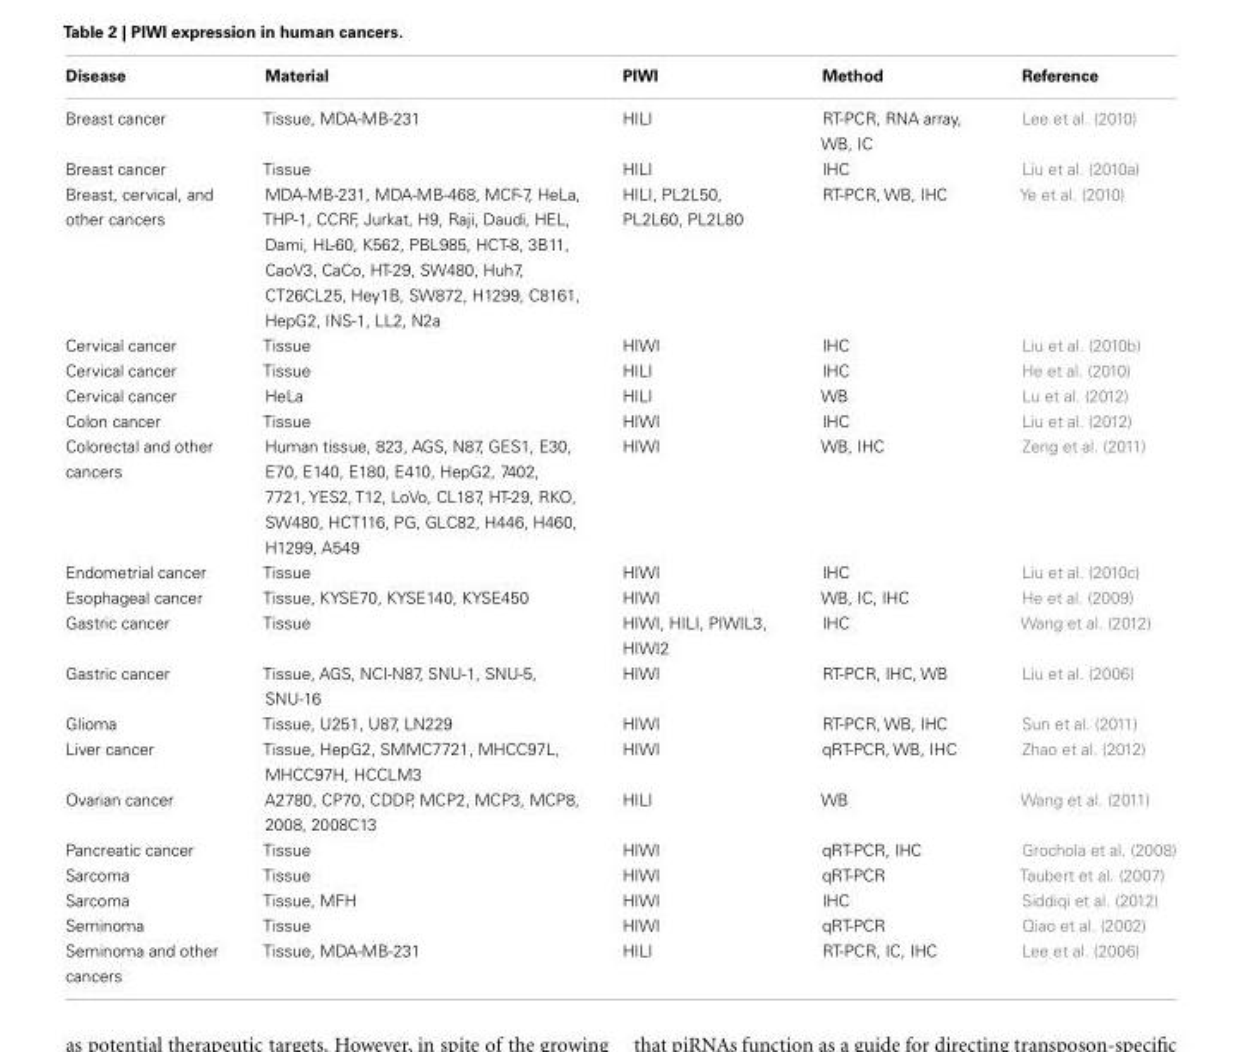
<table><thead><tr><td>Disease</td><td>Material</td><td>PIWI</td><td>Method</td><td>Reference</td></tr></thead><tbody><tr><td>Breast cancer</td><td>Tissue, MDA-MB-231</td><td>HILI</td><td>RT-PCR, RNA array, WB, IC</td><td>Lee et al. (2010)</td></tr><tr><td>Breast cancer</td><td>Tissue</td><td>HILI</td><td>IHC</td><td>Liu et al. (2010a)</td></tr><tr><td>Breast, cervical, and other cancers</td><td>MDA-MB-231, MDA-MB-468, MCF-7, HeLa, THP-1, CCRF, Jurkat, H9, Raji, Daudi, HEL, Dami, HL-60, K562, PBL985, HCT-8, 3B11, CaoV3, CaCo, HT-29, SW480, Huh7, CT26CL25, Hey1B, SW872, H1299, C8161, HepG2, INS-1, LL2, N2a</td><td>HILI, PL2L50, PL2L60, PL2L80</td><td>RT-PCR, WB, IHC</td><td>Ye et al. (2010)</td></tr><tr><td>Cervical cancer</td><td>Tissue</td><td>HIWI</td><td>IHC</td><td>Liu et al. (2010b)</td></tr><tr><td>Cervical cancer</td><td>Tissue</td><td>HILI</td><td>IHC</td><td>He et al. (2010)</td></tr><tr><td>Cervical cancer</td><td>HeLa</td><td>HILI</td><td>WB</td><td>Lu et al. (2012)</td></tr><tr><td>Colon cancer</td><td>Tissue</td><td>HIWI</td><td>IHC</td><td>Liu et al. (2012)</td></tr><tr><td>Colorectal and other cancers</td><td>Human tissue, 823, AGS, N87, GES1, E30, E70, E140, E180, E410, HepG2, 7402, 7721, YES2, T12, LoVo, CL187, HT-29, RKO, SW480, HCT116, PG, GLC82, H446, H460, H1299, A549</td><td>HIWI</td><td>WB, IHC</td><td>Zeng et al. (2011)</td></tr><tr><td>Endometrial cancer</td><td>Tissue</td><td>HIWI</td><td>IHC</td><td>Liu et al. (2010c)</td></tr><tr><td>Esophageal cancer</td><td>Tissue, KYSE70, KYSE140, KYSE450</td><td>HIWI</td><td>WB, IC, IHC</td><td>He et al. (2009)</td></tr><tr><td>Gastric cancer</td><td>Tissue</td><td>HIWI, HILI, PIWIL3, HIWI2</td><td>IHC</td><td>Wang et al. (2012)</td></tr><tr><td>Gastric cancer</td><td>Tissue, AGS, NCI-N87, SNU-1, SNU-5, SNU-16</td><td>HIWI</td><td>RT-PCR, IHC, WB</td><td>Liu et al. (2006)</td></tr><tr><td>Glioma</td><td>Tissue, U251, U87, LN229</td><td>HIWI</td><td>RT-PCR, WB, IHC</td><td>Sun et al. (2011)</td></tr><tr><td>Liver cancer</td><td>Tissue, HepG2, SMMC7721, MHCC97L, MHCC97H, HCCLM3</td><td>HIWI</td><td>qRT-PCR, WB, IHC</td><td>Zhao et al. (2012)</td></tr><tr><td>Ovarian cancer</td><td>A2780, CP70, CDDP, MCP2, MCP3, MCP8, 2008, 2008C13</td><td>HILI</td><td>WB</td><td>Wang et al. (2011)</td></tr><tr><td>Pancreatic cancer</td><td>Tissue</td><td>HIWI</td><td>qRT-PCR, IHC</td><td>Grochola et al. (2008)</td></tr><tr><td>Sarcoma</td><td>Tissue</td><td>HIWI</td><td>qRT-PCR</td><td>Taubert et al. (2007)</td></tr><tr><td>Sarcoma</td><td>Tissue, MFH</td><td>HIWI</td><td>IHC</td><td>Siddiqi et al. (2012)</td></tr><tr><td>Seminoma</td><td>Tissue</td><td>HIWI</td><td>qRT-PCR</td><td>Qiao et al. (2002)</td></tr><tr><td>Seminoma and other cancers</td><td>Tissue, MDA-MB-231</td><td>HILI</td><td>RT-PCR, IC, IHC</td><td>Lee et al. (2006)</td></tr></tbody></table>